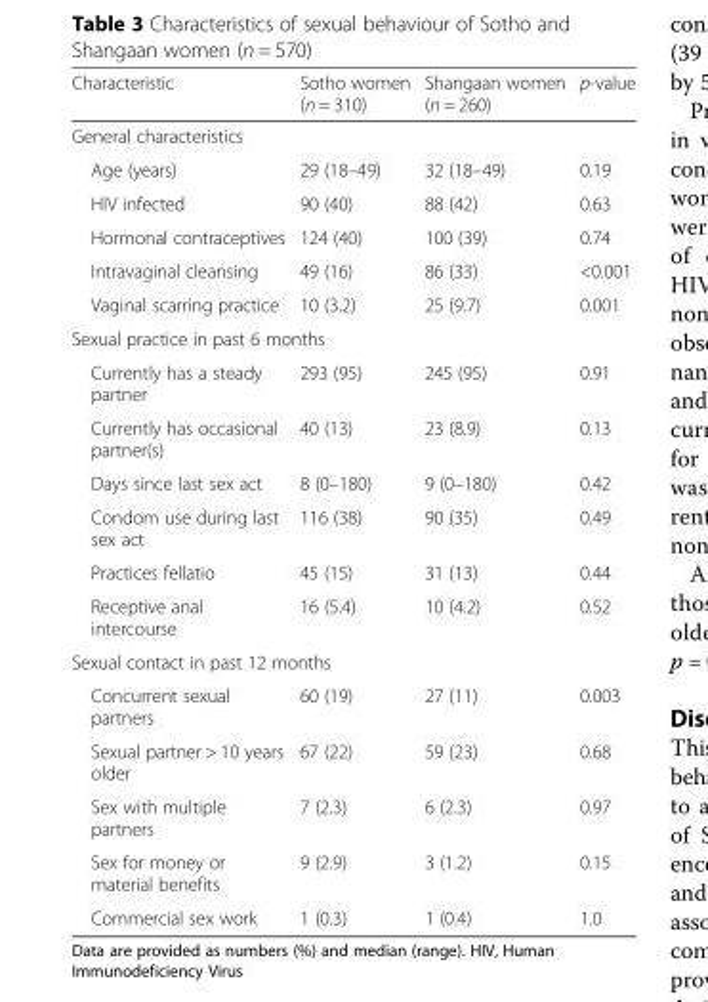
<table><thead><tr><td>Characteristic</td><td>Sotho women (n = 310)</td><td>Shangaan women (n = 260)</td><td>p-value</td></tr></thead><tbody><tr><td colspan="4">General characteristics</td></tr><tr><td>Age (years)</td><td>29 (18–49)</td><td>32 (18–49)</td><td>0.19</td></tr><tr><td>HIV infected</td><td>90 (40)</td><td>88 (42)</td><td>0.63</td></tr><tr><td>Hormonal contraceptives</td><td>124 (40)</td><td>100 (39)</td><td>0.74</td></tr><tr><td>Intravaginal cleansing</td><td>49 (16)</td><td>86 (33)</td><td>&lt;0.001</td></tr><tr><td>Vaginal scarring practice</td><td>10 (3.2)</td><td>25 (9.7)</td><td>0.001</td></tr><tr><td colspan="4">Sexual practice in past 6 months</td></tr><tr><td>Currently has a steady partner</td><td>293 (95)</td><td>245 (95)</td><td>0.91</td></tr><tr><td>Currently has occasional partner(s)</td><td>40 (13)</td><td>23 (8.9)</td><td>0.13</td></tr><tr><td>Days since last sex act</td><td>8 (0–180)</td><td>9 (0–180)</td><td>0.42</td></tr><tr><td>Condom use during last sex act</td><td>116 (38)</td><td>90 (35)</td><td>0.49</td></tr><tr><td>Practices fellatio</td><td>45 (15)</td><td>31 (13)</td><td>0.44</td></tr><tr><td>Receptive anal intercourse</td><td>16 (5.4)</td><td>10 (4.2)</td><td>0.52</td></tr><tr><td colspan="4">Sexual contact in past 12 months</td></tr><tr><td>Concurrent sexual partners</td><td>60 (19)</td><td>27 (11)</td><td>0.003</td></tr><tr><td>Sexual partner &gt; 10 years older</td><td>67 (22)</td><td>59 (23)</td><td>0.68</td></tr><tr><td>Sex with multiple partners</td><td>7 (2.3)</td><td>6 (2.3)</td><td>0.97</td></tr><tr><td>Sex for money or material benefits</td><td>9 (2.9)</td><td>3 (1.2)</td><td>0.15</td></tr><tr><td>Commercial sex work</td><td>1 (0.3)</td><td>1 (0.4)</td><td>1.0</td></tr></tbody></table>